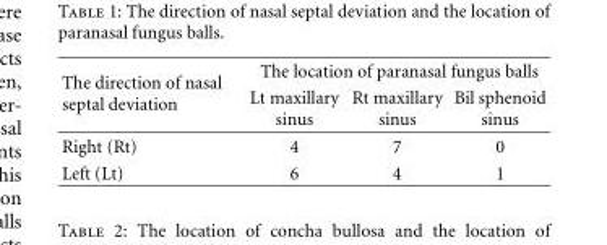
<table><thead><tr><td rowspan="2">The direction of nasal septal deviation</td><td colspan="3">The location of paranasal fungus balls</td></tr><tr><td>Lt maxillary sinus</td><td>Rt maxillary sinus</td><td>Bil sphenoid sinus</td></tr></thead><tbody><tr><td>Right (Rt)</td><td>4</td><td>7</td><td>0</td></tr><tr><td>Left (Lt)</td><td>6</td><td>4</td><td>1</td></tr></tbody></table>